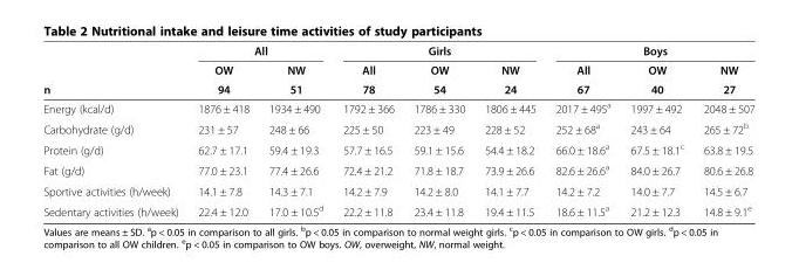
<table><thead><tr><td rowspan="3">n</td><td colspan="2">All</td><td colspan="3">Girls</td><td colspan="3">Boys</td></tr><tr><td rowspan="2">OW 94</td><td rowspan="2">NW 51</td><td rowspan="2">All 78</td><td rowspan="2">OW 54</td><td rowspan="2">NW 24</td><td rowspan="2">All 67</td><td rowspan="2">OW 40</td><td rowspan="2">NW 27</td></tr><tr></tr></thead><tbody><tr><td>Energy (kcal/d)</td><td>1876 ± 418</td><td>1934 ± 490</td><td>1792 ± 366</td><td>1786 ± 330</td><td>1806 ± 445</td><td>2017 ± 495<sup>a</sup></td><td>1997 ± 492</td><td>2048 ± 507</td></tr><tr><td>Carbohydrate (g/d)</td><td>231 ± 57</td><td>248 ± 66</td><td>225 ± 50</td><td>223 ± 49</td><td>228 ± 52</td><td>252 ± 68<sup>a</sup></td><td>243 ± 64</td><td>265 ± 72<sup>b</sup></td></tr><tr><td>Protein (g/d)</td><td>62.7 ± 17.1</td><td>59.4 ± 19.3</td><td>57.7 ± 16.5</td><td>59.1 ± 15.6</td><td>54.4 ± 18.2</td><td>66.0 ± 18.6<sup>a</sup></td><td>67.5 ± 18.1<sup>c</sup></td><td>63.8 ± 19.5</td></tr><tr><td>Fat (g/d)</td><td>77.0 ± 23.1</td><td>77.4 ± 26.6</td><td>72.4 ± 21.2</td><td>71.8 ± 18.7</td><td>73.9 ± 26.6</td><td>82.6 ± 26.6<sup>a</sup></td><td>84.0 ± 26.7</td><td>80.6 ± 26.8</td></tr><tr><td>Sportive activities (h/week)</td><td>14.1 ± 7.8</td><td>14.3 ± 7.1</td><td>14.2 ± 7.9</td><td>14.2 ± 8.0</td><td>14.1 ± 7.7</td><td>14.2 ± 7.2</td><td>14.0 ± 7.7</td><td>14.5 ± 6.7</td></tr><tr><td>Sedentary activities (h/week)</td><td>22.4 ± 12.0</td><td>17.0 ± 10.5<sup>d</sup></td><td>22.2 ± 11.8</td><td>23.4 ± 11.8</td><td>19.4 ± 11.5</td><td>18.6 ± 11.5<sup>a</sup></td><td>21.2 ± 12.3</td><td>14.8 ± 9.1<sup>e</sup></td></tr></tbody></table>